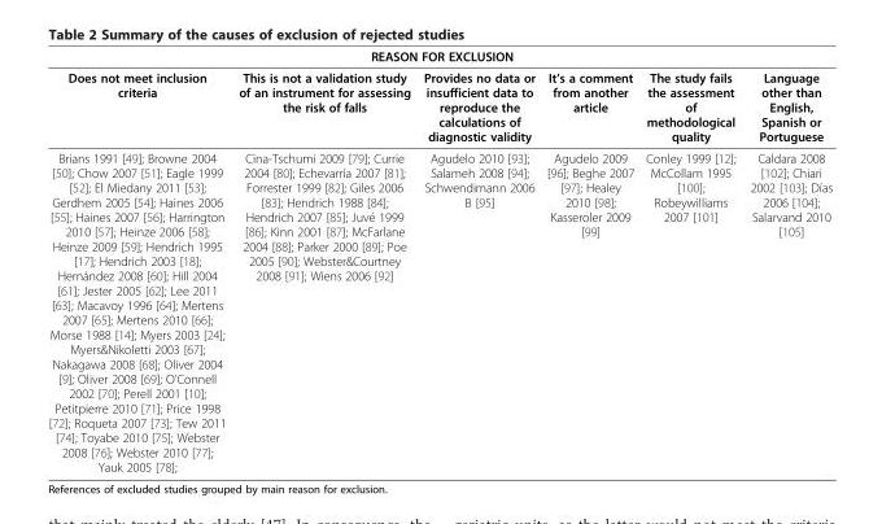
<table><thead><tr><td colspan="6">REASON FOR EXCLUSION</td></tr><tr><td>Does not meet inclusion criteria</td><td>This is not a validation study of an instrument for assessing the risk of falls</td><td>Provides no data or insufficient data to reproduce the calculations of diagnostic validity</td><td>It’s a comment from another article</td><td>The study fails the assessment of methodological quality</td><td>Language other than English, Spanish or Portuguese</td></tr></thead><tbody><tr><td>Brians 1991 [49]; Browne 2004 [50]; Chow 2007 [51]; Eagle 1999 [52]; El Miedany 2011 [53]; Gerdhem 2005 [54]; Haines 2006 [55]; Haines 2007 [56]; Harrington 2010 [57]; Heinze 2006 [58]; Heinze 2009 [59]; Hendrich 1995 [17]; Hendrich 2003 [18]; Hernández 2008 [60]; Hill 2004 [61]; Jester 2005 [62]; Lee 2011 [63]; Macavoy 1996 [64]; Mertens 2007 [65]; Mertens 2010 [66]; Morse 1988 [14]; Myers 2003 [24]; Myers&amp;Nikoletti 2003 [67]; Nakagawa 2008 [68]; Oliver 2004 [9]; Oliver 2008 [69]; O’Connell 2002 [70]; Perell 2001 [10]; Petitpierre 2010 [71]; Price 1998 [72]; Roqueta 2007 [73]; Tew 2011 [74]; Toyabe 2010 [75]; Webster 2008 [76]; Webster 2010 [77]; Yauk 2005 [78];</td><td>Cina-Tschumi 2009 [79]; Currie 2004 [80]; Echevarría 2007 [81]; Forrester 1999 [82]; Giles 2006 [83]; Hendrich 1988 [84]; Hendrich 2007 [85]; Juvé 1999 [86]; Kinn 2001 [87]; McFarlane 2004 [88]; Parker 2000 [89]; Poe 2005 [90]; Webster&amp;Courtney 2008 [91]; Wiens 2006 [92]</td><td>Agudelo 2010 [93]; Salameh 2008 [94]; Schwendimann 2006 B [95]</td><td>Agudelo 2009 [96]; Beghe 2007 [97]; Healey 2010 [98]; Kasseroler 2009 [99]</td><td>Conley 1999 [12]; McCollam 1995 [100]; Robeywilliams 2007 [101]</td><td>Caldara 2008 [102]; Chiari 2002 [103]; Días 2006 [104]; Salarvand 2010 [105]</td></tr></tbody></table>